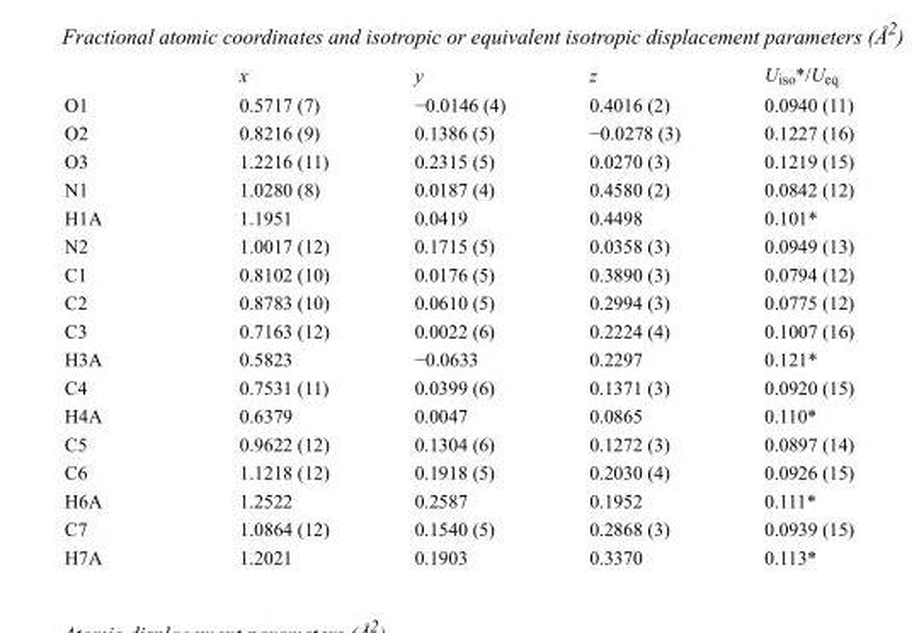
<table><thead><tr><td></td><td>x</td><td>y</td><td>z</td><td>U<sub>iso</sub>*/U<sub>eq</sub></td></tr></thead><tbody><tr><td>O1</td><td>0.5717 (7)</td><td>−0.0146 (4)</td><td>0.4016 (2)</td><td>0.0940 (11)</td></tr><tr><td>O2</td><td>0.8216 (9)</td><td>0.1386 (5)</td><td>−0.0278 (3)</td><td>0.1227 (16)</td></tr><tr><td>O3</td><td>1.2216 (11)</td><td>0.2315 (5)</td><td>0.0270 (3)</td><td>0.1219 (15)</td></tr><tr><td>N1</td><td>1.0280 (8)</td><td>0.0187 (4)</td><td>0.4580 (2)</td><td>0.0842 (12)</td></tr><tr><td>H1A</td><td>1.1951</td><td>0.0419</td><td>0.4498</td><td>0.101*</td></tr><tr><td>N2</td><td>1.0017 (12)</td><td>0.1715 (5)</td><td>0.0358 (3)</td><td>0.0949 (13)</td></tr><tr><td>C1</td><td>0.8102 (10)</td><td>0.0176 (5)</td><td>0.3890 (3)</td><td>0.0794 (12)</td></tr><tr><td>C2</td><td>0.8783 (10)</td><td>0.0610 (5)</td><td>0.2994 (3)</td><td>0.0775 (12)</td></tr><tr><td>C3</td><td>0.7163 (12)</td><td>0.0022 (6)</td><td>0.2224 (4)</td><td>0.1007 (16)</td></tr><tr><td>H3A</td><td>0.5823</td><td>−0.0633</td><td>0.2297</td><td>0.121*</td></tr><tr><td>C4</td><td>0.7531 (11)</td><td>0.0399 (6)</td><td>0.1371 (3)</td><td>0.0920 (15)</td></tr><tr><td>H4A</td><td>0.6379</td><td>0.0047</td><td>0.0865</td><td>0.110*</td></tr><tr><td>C5</td><td>0.9622 (12)</td><td>0.1304 (6)</td><td>0.1272 (3)</td><td>0.0897 (14)</td></tr><tr><td>C6</td><td>1.1218 (12)</td><td>0.1918 (5)</td><td>0.2030 (4)</td><td>0.0926 (15)</td></tr><tr><td>H6A</td><td>1.2522</td><td>0.2587</td><td>0.1952</td><td>0.111*</td></tr><tr><td>C7</td><td>1.0864 (12)</td><td>0.1540 (5)</td><td>0.2868 (3)</td><td>0.0939 (15)</td></tr><tr><td>H7A</td><td>1.2021</td><td>0.1903</td><td>0.3370</td><td>0.113*</td></tr></tbody></table>